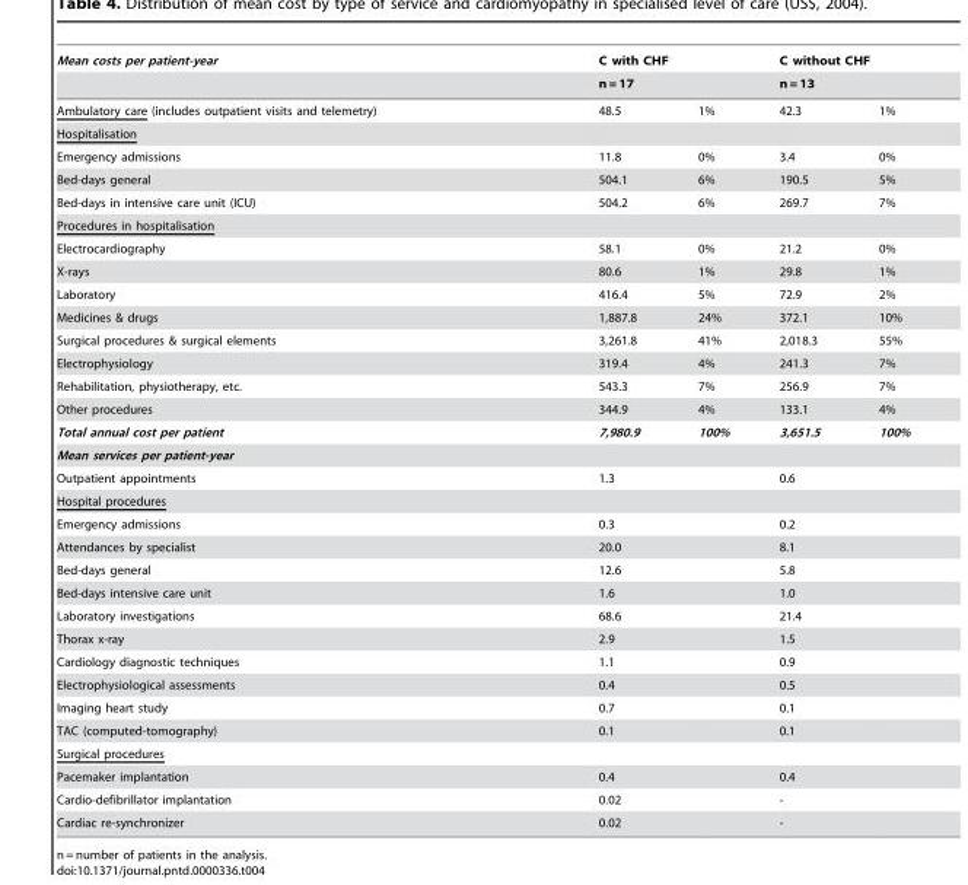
<table><thead><tr><td rowspan="3">Mean costs per patient-year Ambulatory care (includes outpatient visits and telemetry)</td><td rowspan="2" colspan="2">C with CHF n = 17</td><td rowspan="2" colspan="2">C without CHF n = 13</td></tr><tr></tr><tr><td>48.5</td><td>1%</td><td>42.3</td><td>1%</td></tr></thead><tbody><tr><td colspan="5">Hospitalisation</td></tr><tr><td>Emergency admissions</td><td>11.8</td><td>0%</td><td>3.4</td><td>0%</td></tr><tr><td>Bed-days general</td><td>504.1</td><td>6%</td><td>190.5</td><td>5%</td></tr><tr><td>Bed-days in intensive care unit (ICU)</td><td>504.2</td><td>6%</td><td>269.7</td><td>7%</td></tr><tr><td colspan="5">Procedures in hospitalisation</td></tr><tr><td>Electrocardiography</td><td>58.1</td><td>0%</td><td>21.2</td><td>0%</td></tr><tr><td>X-rays</td><td>80.6</td><td>1%</td><td>29.8</td><td>1%</td></tr><tr><td>Laboratory</td><td>416.4</td><td>5%</td><td>72.9</td><td>2%</td></tr><tr><td>Medicines &amp; drugs</td><td>1,887.8</td><td>24%</td><td>372.1</td><td>10%</td></tr><tr><td>Surgical procedures &amp; surgical elements</td><td>3,261.8</td><td>41%</td><td>2,018.3</td><td>55%</td></tr><tr><td>Electrophysiology</td><td>319.4</td><td>4%</td><td>241.3</td><td>7%</td></tr><tr><td>Rehabilitation, physiotherapy, etc.</td><td>543.3</td><td>7%</td><td>256.9</td><td>7%</td></tr><tr><td>Other procedures</td><td>344.9</td><td>4%</td><td>133.1</td><td>4%</td></tr><tr><td>Total annual cost per patient</td><td>7,980.9</td><td>100%</td><td>3,651.5</td><td>100%</td></tr><tr><td colspan="5">Mean services per patient-year</td></tr><tr><td>Outpatient appointments</td><td>1.3</td><td></td><td>0.6</td><td></td></tr><tr><td colspan="5">Hospital procedures</td></tr><tr><td>Emergency admissions</td><td>0.3</td><td></td><td>0.2</td><td></td></tr><tr><td>Attendances by specialist</td><td>20.0</td><td></td><td>8.1</td><td></td></tr><tr><td>Bed-days general</td><td>12.6</td><td></td><td>5.8</td><td></td></tr><tr><td>Bed-days intensive care unit</td><td>1.6</td><td></td><td>1.0</td><td></td></tr><tr><td>Laboratory investigations</td><td>68.6</td><td></td><td>21.4</td><td></td></tr><tr><td>Thorax x-ray</td><td>2.9</td><td></td><td>1.5</td><td></td></tr><tr><td>Cardiology diagnostic techniques</td><td>1.1</td><td></td><td>0.9</td><td></td></tr><tr><td>Electrophysiological assessments</td><td>0.4</td><td></td><td>0.5</td><td></td></tr><tr><td>Imaging heart study</td><td>0.7</td><td></td><td>0.1</td><td></td></tr><tr><td>TAC (computed-tomography)</td><td>0.1</td><td></td><td>0.1</td><td></td></tr><tr><td colspan="5">Surgical procedures</td></tr><tr><td>Pacemaker implantation</td><td>0.4</td><td></td><td>0.4</td><td></td></tr><tr><td>Cardio-defibrillator implantation</td><td>0.02</td><td></td><td>-</td><td></td></tr><tr><td>Cardiac re-synchronizer</td><td>0.02</td><td></td><td>-</td><td></td></tr></tbody></table>